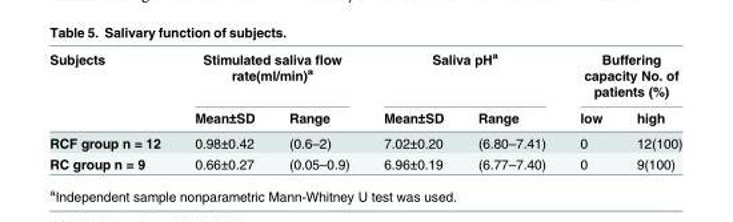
<table><thead><tr><td rowspan="2">Subjects</td><td colspan="2">Stimulated saliva flow rate(ml/min)<sup>a</sup></td><td colspan="2">Saliva pH<sup>a</sup></td><td colspan="2">Buffering capacity No. of patients (%)</td></tr><tr><td>Mean±SD</td><td>Range</td><td>Mean±SD</td><td>Range</td><td>low</td><td>high</td></tr></thead><tbody><tr><td>RCF group n = 12</td><td>0.98±0.42</td><td>(0.6–2)</td><td>7.02±0.20</td><td>(6.80–7.41)</td><td>0</td><td>12(100)</td></tr><tr><td>RC group n = 9</td><td>0.66±0.27</td><td>(0.05–0.9)</td><td>6.96±0.19</td><td>(6.77–7.40)</td><td>0</td><td>9(100)</td></tr></tbody></table>